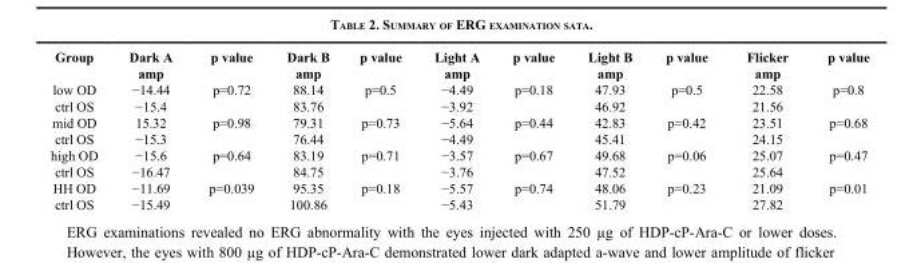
<table><thead><tr><td>Group</td><td>Dark A amp</td><td>p value</td><td>Dark B amp</td><td>p value</td><td>Light A amp</td><td>p value</td><td>Light B amp</td><td>p value</td><td>Flicker amp</td><td>p value</td></tr></thead><tbody><tr><td>low OD</td><td>−14.44</td><td>p=0.72</td><td>88.14</td><td>p=0.5</td><td>−4.49</td><td>p=0.18</td><td>47.93</td><td>p=0.5</td><td>22.58</td><td>p=0.8</td></tr><tr><td>ctrl OS</td><td>−15.4</td><td></td><td>83.76</td><td></td><td>−3.92</td><td></td><td>46.92</td><td></td><td>21.56</td><td></td></tr><tr><td>mid OD</td><td>15.32</td><td>p=0.98</td><td>79.31</td><td>p=0.73</td><td>−5.64</td><td>p=0.44</td><td>42.83</td><td>p=0.42</td><td>23.51</td><td>p=0.68</td></tr><tr><td>ctrl OS</td><td>−15.3</td><td></td><td>76.44</td><td></td><td>−4.49</td><td></td><td>45.41</td><td></td><td>24.15</td><td></td></tr><tr><td>high OD</td><td>−15.6</td><td>p=0.64</td><td>83.19</td><td>p=0.71</td><td>−3.57</td><td>p=0.67</td><td>49.68</td><td>p=0.06</td><td>25.07</td><td>p=0.47</td></tr><tr><td>ctrl OS</td><td>−16.47</td><td></td><td>84.75</td><td></td><td>−3.76</td><td></td><td>47.52</td><td></td><td>25.64</td><td></td></tr><tr><td>HH OD</td><td>−11.69</td><td>p=0.039</td><td>95.35</td><td>p=0.18</td><td>−5.57</td><td>p=0.74</td><td>48.06</td><td>p=0.23</td><td>21.09</td><td>p=0.01</td></tr><tr><td>ctrl OS</td><td>−15.49</td><td></td><td>100.86</td><td></td><td>−5.43</td><td></td><td>51.79</td><td></td><td>27.82</td><td></td></tr></tbody></table>